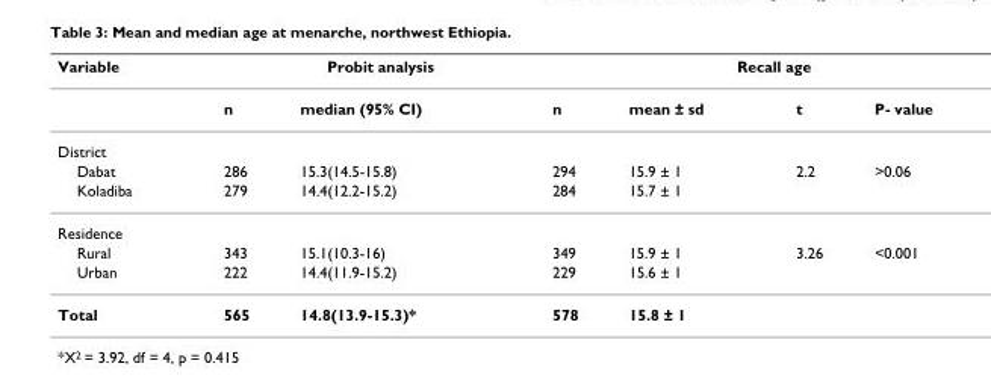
<table><thead><tr><td rowspan="2">Variable</td><td colspan="2">Probit analysis</td><td colspan="4">Recall age</td></tr><tr><td>n</td><td>median (95% CI)</td><td>n</td><td>mean ± sd</td><td>t</td><td>P- value</td></tr></thead><tbody><tr><td colspan="7">District</td></tr><tr><td>Dabat</td><td>286</td><td>15.3(14.5-15.8)</td><td>294</td><td>15.9 ± 1</td><td>2.2</td><td>&gt;0.06</td></tr><tr><td>Koladiba</td><td>279</td><td>14.4(12.2-15.2)</td><td>284</td><td>15.7 ± 1</td><td></td><td></td></tr><tr><td colspan="7">Residence</td></tr><tr><td>Rural</td><td>343</td><td>15.1(10.3-16)</td><td>349</td><td>15.9 ± 1</td><td>3.26</td><td>&lt;0.001</td></tr><tr><td>Urban</td><td>222</td><td>14.4(11.9-15.2)</td><td>229</td><td>15.6 ± 1</td><td></td><td></td></tr><tr><td>Total</td><td>565</td><td>14.8(13.9-15.3)*</td><td>578</td><td>15.8 ± 1</td><td></td><td></td></tr></tbody></table>